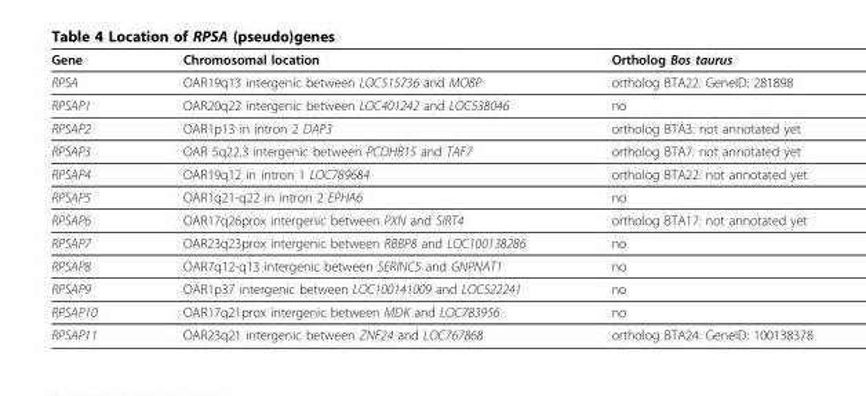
<table><thead><tr><td>Gene</td><td>Chromosomal location</td><td>Ortholog Bos taurus</td></tr></thead><tbody><tr><td>RPSA</td><td>OAR19q13 intergenic between LOC515736 and MOBP</td><td>ortholog BTA22: GeneID: 281898</td></tr><tr><td>RPSAP1</td><td>OAR20q22 intergenic between LOC401242 and LOC538046</td><td>no</td></tr><tr><td>RPSAP2</td><td>OAR1p13 in intron 2 DAP3</td><td>ortholog BTA3: not annotated yet</td></tr><tr><td>RPSAP3</td><td>OAR 5q22.3 intergenic between PCDHB15 and TAF7</td><td>ortholog BTA7: not annotated yet</td></tr><tr><td>RPSAP4</td><td>OAR19q12 in intron 1 LOC789684</td><td>ortholog BTA22: not annotated yet</td></tr><tr><td>RPSAP5</td><td>OAR1q21-q22 in intron 2 EPHA6</td><td>no</td></tr><tr><td>RPSAP6</td><td>OAR17q26prox intergenic between PXN and SIRT4</td><td>ortholog BTA17: not annotated yet</td></tr><tr><td>RPSAP7</td><td>OAR23q23prox intergenic between RBBP8 and LOC100138286</td><td>no</td></tr><tr><td>RPSAP8</td><td>OAR7q12-q13 intergenic between SERINC5 and GNPNAT1</td><td>no</td></tr><tr><td>RPSAP9</td><td>OAR1p37 intergenic between LOC100141009 and LOC522241</td><td>no</td></tr><tr><td>RPSAP10</td><td>OAR17q21prox intergenic between MDK and LOC783956</td><td>no</td></tr><tr><td>RPSAP11</td><td>OAR23q21 intergenic between ZNF24 and LOC767868</td><td>ortholog BTA24: GeneID: 100138378</td></tr></tbody></table>